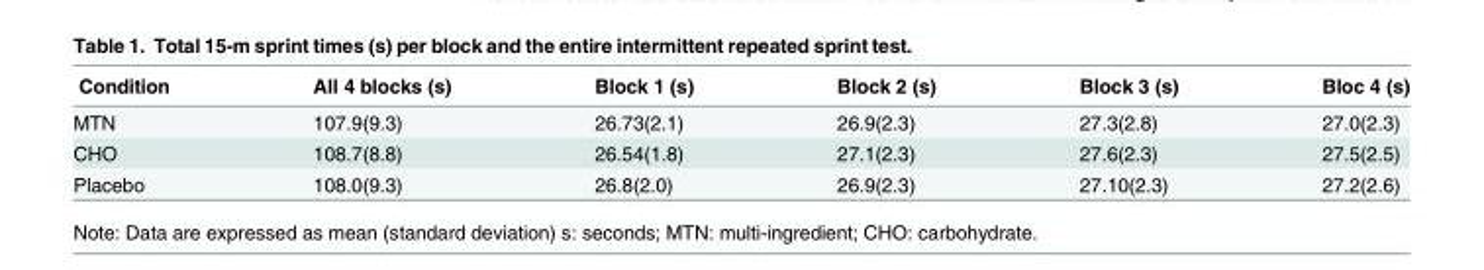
<table><thead><tr><td>Condition</td><td>All 4 blocks (s)</td><td>Block 1 (s)</td><td>Block 2 (s)</td><td>Block 3 (s)</td><td>Bloc 4 (s)</td></tr></thead><tbody><tr><td>MTN</td><td>107.9(9.3)</td><td>26.73(2.1)</td><td>26.9(2.3)</td><td>27.3(2.8)</td><td>27.0(2.3)</td></tr><tr><td>CHO</td><td>108.7(8.8)</td><td>26.54(1.8)</td><td>27.1(2.3)</td><td>27.6(2.3)</td><td>27.5(2.5)</td></tr><tr><td>Placebo</td><td>108.0(9.3)</td><td>26.8(2.0)</td><td>26.9(2.3)</td><td>27.10(2.3)</td><td>27.2(2.6)</td></tr></tbody></table>